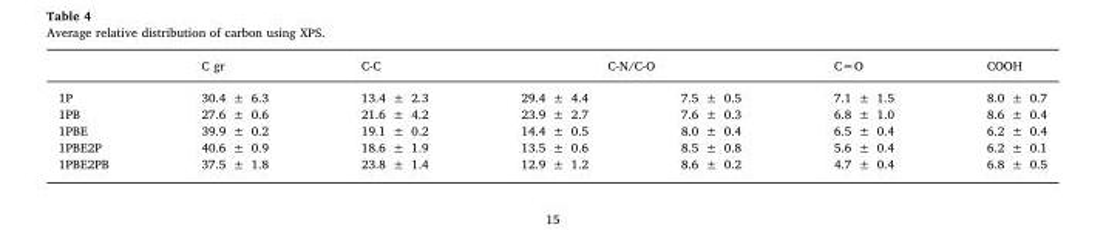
<table><thead><tr><td rowspan="2">1P</td><td rowspan="2">C gr 30.4 ± 6.3</td><td rowspan="2">C-C 13.4 ± 2.3</td><td colspan="2">C-N/C-O</td><td rowspan="2">C=O 7.1 ± 1.5</td><td rowspan="2">COOH 8.0 ± 0.7</td></tr><tr><td>29.4 ± 4.4</td><td>7.5 ± 0.5</td></tr></thead><tbody><tr><td>1PB</td><td>27.6 ± 0.6</td><td>21.6 ± 4.2</td><td>23.9 ± 2.7</td><td>7.6 ± 0.3</td><td>6.8 ± 1.0</td><td>8.6 ± 0.4</td></tr><tr><td>1PBE</td><td>39.9 ± 0.2</td><td>19.1 ± 0.2</td><td>14.4 ± 0.5</td><td>8.0 ± 0.4</td><td>6.5 ± 0.4</td><td>6.2 ± 0.4</td></tr><tr><td>1PBE2P</td><td>40.6 ± 0.9</td><td>18.6 ± 1.9</td><td>13.5 ± 0.6</td><td>8.5 ± 0.8</td><td>5.6 ± 0.4</td><td>6.2 ± 0.1</td></tr><tr><td>1PBE2PB</td><td>37.5 ± 1.8</td><td>23.8 ± 1.4</td><td>12.9 ± 1.2</td><td>8.6 ± 0.2</td><td>4.7 ± 0.4</td><td>6.8 ± 0.5</td></tr></tbody></table>